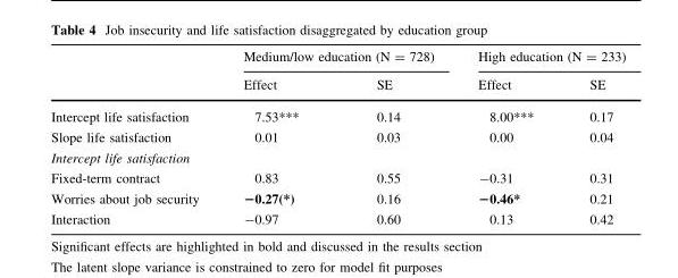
<table><thead><tr><td rowspan="2"></td><td colspan="2">Medium/low education (N = 728)</td><td colspan="2">High education (N = 233)</td></tr><tr><td>Effect</td><td>SE</td><td>Effect</td><td>SE</td></tr></thead><tbody><tr><td>Intercept life satisfaction</td><td>7.53***</td><td>0.14</td><td>8.00***</td><td>0.17</td></tr><tr><td>Slope life satisfaction</td><td>0.01</td><td>0.03</td><td>0.00</td><td>0.04</td></tr><tr><td colspan="5">Intercept life satisfaction</td></tr><tr><td>Fixed-term contract</td><td>0.83</td><td>0.55</td><td>-0.31</td><td>0.31</td></tr><tr><td>Worries about job security</td><td>−0.27(*)</td><td>0.16</td><td>−0.46*</td><td>0.21</td></tr><tr><td>Interaction</td><td>-0.97</td><td>0.60</td><td>0.13</td><td>0.42</td></tr></tbody></table>